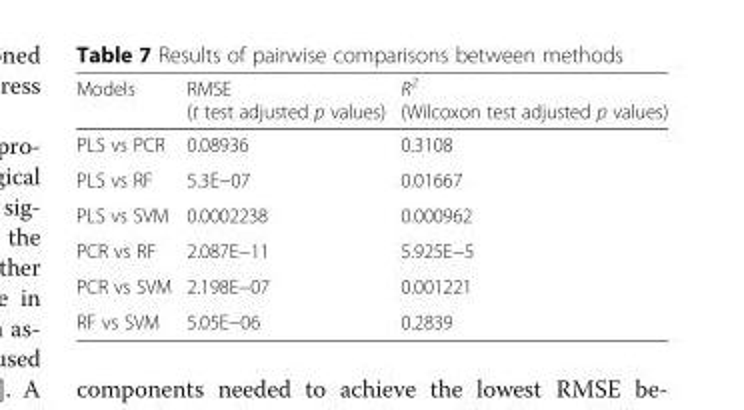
<table><thead><tr><td>Models</td><td>RMSE (t test adjusted p values)</td><td>R<sup>2</sup> (Wilcoxon test adjusted p values)</td></tr></thead><tbody><tr><td>PLS vs PCR</td><td>0.08936</td><td>0.3108</td></tr><tr><td>PLS vs RF</td><td>5.3E−07</td><td>0.01667</td></tr><tr><td>PLS vs SVM</td><td>0.0002238</td><td>0.000962</td></tr><tr><td>PCR vs RF</td><td>2.087E−11</td><td>5.925E−5</td></tr><tr><td>PCR vs SVM</td><td>2.198E−07</td><td>0.001221</td></tr><tr><td>RF vs SVM</td><td>5.05E−06</td><td>0.2839</td></tr></tbody></table>